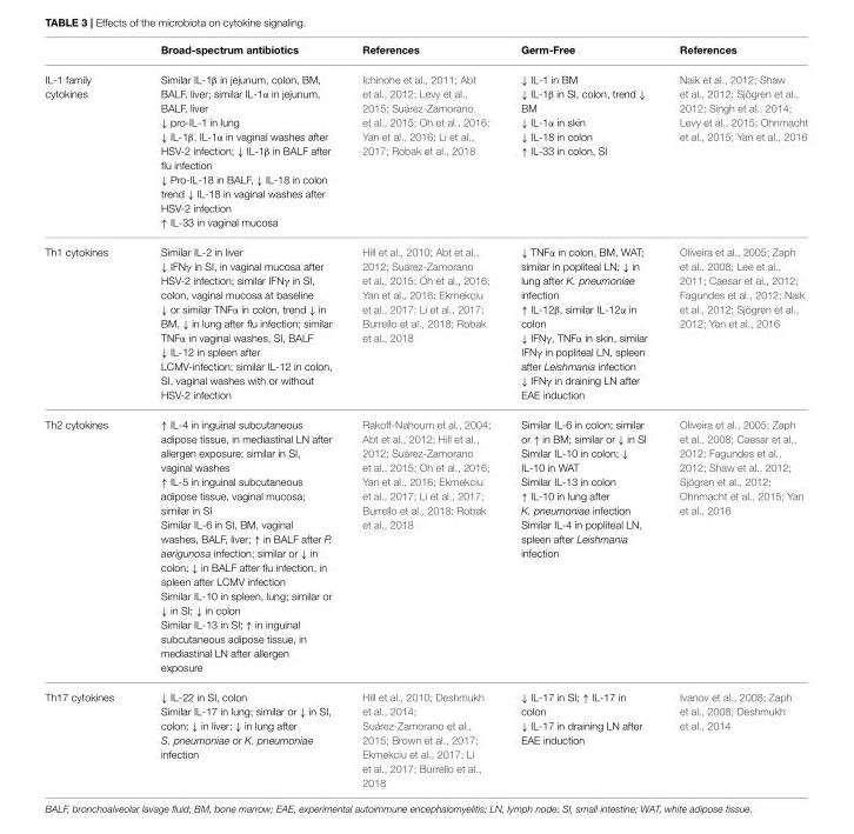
<table><thead><tr><td></td><td>Broad-spectrum antibiotics</td><td>References</td><td>Germ-Free</td><td>References</td></tr></thead><tbody><tr><td>IL-1 family cytokines</td><td>Similar IL-1β in jejunum, colon, BM, BALF, liver; similar IL-1α in jejunum, BALF, liver ↓ pro-IL-1 in lung ↓ IL-1β, IL-1α in vaginal washes after HSV-2 infection; ↓ IL-1β in BALF after flu infection ↓ Pro-IL-18 in BALF, ↓ IL-18 in colon trend ↓ IL-18 in vaginal washes after HSV-2 infection ↑ IL-33 in vaginal mucosa</td><td>Ichinohe et al., 2011; Abt et al., 2012; Levy et al., 2015; Suárez-Zamorano et al., 2015; Oh et al., 2016; Yan et al., 2016; Li et al., 2017; Robak et al., 2018</td><td>↓ IL-1 in BM ↓ IL-1β in SI, colon, trend ↓ BM ↓ IL-1α in skin ↓ IL-18 in colon ↑ IL-33 in colon, SI</td><td>Naik et al., 2012; Shaw et al., 2012; Sjögren et al., 2012; Singh et al., 2014; Levy et al., 2015; Ohnmacht et al., 2015; Yan et al., 2016</td></tr><tr><td>Th1 cytokines</td><td>Similar IL-2 in liver ↓ IFNγ in SI, in vaginal mucosa after HSV-2 infection; similar IFNγ in SI, colon, vaginal mucosa at baseline ↓ or similar TNFα in colon, trend ↓ in BM, ↓ in lung after flu infection; similar TNFα in vaginal washes, SI, BALF ↓ IL-12 in spleen after LCMV-infection; similar IL-12 in colon, SI, vaginal washes with or without HSV-2 infection</td><td>Hill et al., 2010; Abt et al., 2012; Suárez-Zamorano et al., 2015; Oh et al., 2016; Yan et al., 2016; Ekmekciu et al., 2017; Li et al., 2017; Burrello et al., 2018; Robak et al., 2018</td><td>↓ TNFα in colon, BM, WAT; similar in popliteal LN; ↓ in lung after K. pneumoniae infection ↑ IL-12β, similar IL-12α in colon ↓ IFNγ, TNFα in skin, similar IFNγ in popliteal LN, spleen after Leishmania infection ↓ IFNγ in draining LN after EAE induction</td><td>Oliveira et al., 2005; Zaph et al., 2008; Lee et al., 2011; Caesar et al., 2012; Fagundes et al., 2012; Naik et al., 2012; Sjögren et al., 2012; Yan et al., 2016</td></tr><tr><td>Th2 cytokines</td><td>↑ IL-4 in inguinal subcutaneous adipose tissue, in mediastinal LN after allergen exposure; similar in SI, vaginal washes ↑ IL-5 in inguinal subcutaneous adipose tissue, vaginal mucosa; similar in SI Similar IL-6 in SI, BM, vaginal washes, BALF, liver; ↑ in BALF after P. aerigunosa infection; similar or ↓ in colon; ↓ in BALF after flu infection, in spleen after LCMV infection Similar IL-10 in spleen, lung; similar or ↓ in SI; ↓ in colon Similar IL-13 in SI; ↑ in inguinal subcutaneous adipose tissue, in mediastinal LN after allergen exposure</td><td>Rakoff-Nahoum et al., 2004; Abt et al., 2012; Hill et al., 2012; Suárez-Zamorano et al., 2015; Oh et al., 2016; Yan et al., 2016; Ekmekciu et al., 2017; Li et al., 2017; Burrello et al., 2018; Robak et al., 2018</td><td>Similar IL-6 in colon; similar or ↑ in BM; similar or ↓ in SI Similar IL-10 in colon; ↓ IL-10 in WAT Similar IL-13 in colon ↑ IL-10 in lung after K. pneumoniae infection Similar IL-4 in popliteal LN, spleen after Leishmania infection</td><td>Oliveira et al., 2005; Zaph et al., 2008; Caesar et al., 2012; Fagundes et al., 2012; Shaw et al., 2012; Sjögren et al., 2012; Ohnmacht et al., 2015; Yan et al., 2016</td></tr><tr><td>Th17 cytokines</td><td>↓ IL-22 in SI, colon Similar IL-17 in lung; similar or ↓ in SI, colon; ↓ in liver; ↓ in lung after S. pneumoniae or K. pneumoniae infection</td><td>Hill et al., 2010; Deshmukh et al., 2014; Suárez-Zamorano et al., 2015; Brown et al., 2017; Ekmekciu et al., 2017; Li et al., 2017; Burrello et al., 2018</td><td>↓ IL-17 in SI; ↑ IL-17 in colon ↓ IL-17 in draining LN after EAE induction</td><td>Ivanov et al., 2008; Zaph et al., 2008; Deshmukh et al., 2014</td></tr></tbody></table>